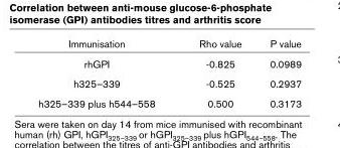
<table><thead><tr><td>Immunisation</td><td>Rho value</td><td>P value</td></tr></thead><tbody><tr><td>rhGPI</td><td>-0.825</td><td>0.0989</td></tr><tr><td>h325–339</td><td>-0.525</td><td>0.2937</td></tr><tr><td>h325–339 plus h544–558</td><td>0.500</td><td>0.3173</td></tr></tbody></table>